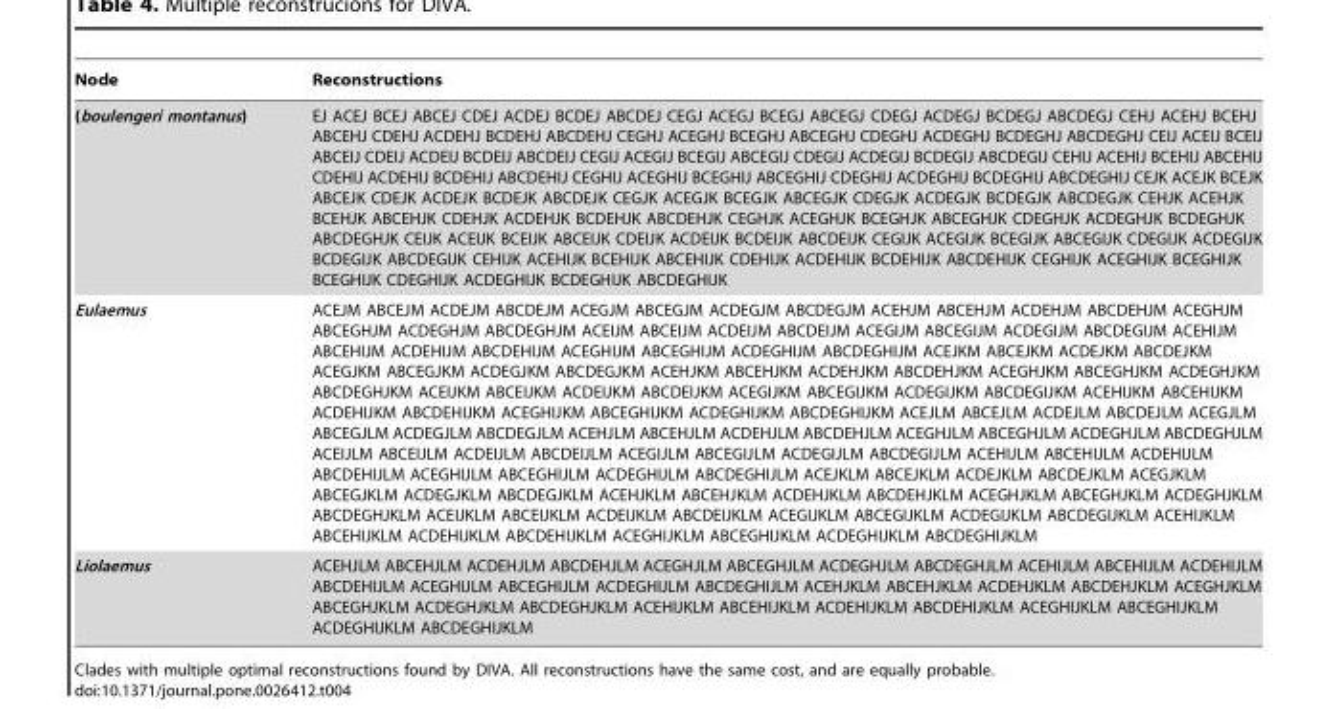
<table><thead><tr><td>Node</td><td>Reconstructions</td></tr></thead><tbody><tr><td>(boulengeri montanus)</td><td>EJ ACEJ BCEJ ABCEJ CDEJ ACDEJ BCDEJ ABCDEJ CEGJ ACEGJ BCEGJ ABCEGJ CDEGJ ACDEGJ BCDEGJ ABCDEGJ CEHJ ACEHJ BCEHJ ABCEHJ CDEHJ ACDEHJ BCDEHJ ABCDEHJ CEGHJ ACEGHJ BCEGHJ ABCEGHJ CDEGHJ ACDEGHJ BCDEGHJ ABCDEGHJ CEIJ ACEIJ BCEIJ ABCEIJ CDEIJ ACDEIJ BCDEIJ ABCDEIJ CEGIJ ACEGIJ BCEGIJ ABCEGIJ CDEGIJ ACDEGIJ BCDEGIJ ABCDEGIJ CEHIJ ACEHIJ BCEHIJ ABCEHIJ CDEHIJ ACDEHIJ BCDEHIJ ABCDEHIJ CEGHIJ ACEGHIJ BCEGHIJ ABCEGHIJ CDEGHIJ ACDEGHIJ BCDEGHIJ ABCDEGHIJ CEJK ACEJK BCEJK ABCEJK CDEJK ACDEJK BCDEJK ABCDEJK CEGJK ACEGJK BCEGJK ABCEGJK CDEGJK ACDEGJK BCDEGJK ABCDEGJK CEHJK ACEHJK BCEHJK ABCEHJK CDEHJK ACDEHJK BCDEHJK ABCDEHJK CEGHJK ACEGHJK BCEGHJK ABCEGHJK CDEGHJK ACDEGHJK BCDEGHJK ABCDEGHJK CEIJK ACEIJK BCEIJK ABCEIJK CDEIJK ACDEIJK BCDEIJK ABCDEIJK CEGIJK ACEGIJK BCEGIJK ABCEGIJK CDEGIJK ACDEGIJK BCDEGIJK ABCDEGIJK CEHIJK ACEHIJK BCEHIJK ABCEHIJK CDEHIJK ACDEHIJK BCDEHIJK ABCDEHIJK CEGHIJK ACEGHIJK BCEGHIJK BCEGHIJK CDEGHIJK ACDEGHIJK BCDEGHIJK ABCDEGHIJK</td></tr><tr><td>Eulaemus</td><td>ACEJM ABCEJM ACDEJM ABCDEJM ACEGJM ABCEGJM ACDEGJM ABCDEGJM ACEHJM ABCEHJM ACDEHJM ABCDEHJM ACEGHJM ABCEGHJM ACDEGHJM ABCDEGHJM ACEIJM ABCEIJM ACDEIJM ABCDEIJM ACEGIJM ABCEGIJM ACDEGIJM ABCDEGIJM ACEHIJM ABCEHIJM ACDEHIJM ABCDEHIJM ACEGHIJM ABCEGHIJM ACDEGHIJM ABCDEGHIJM ACEJKM ABCEJKM ACDEJKM ABCDEJKM ACEGJKM ABCEGJKM ACDEGJKM ABCDEGJKM ACEHJKM ABCEHJKM ACDEHJKM ABCDEHJKM ACEGHJKM ABCEGHJKM ACDEGHJKM ABCDEGHJKM ACEIJKM ABCEIJKM ACDEIJKM ABCDEIJKM ACEGIJKM ABCEGIJKM ACDEGIJKM ABCDEGIJKM ACEHIJKM ABCEHIJKM ACDEHIJKM ABCDEHIJKM ACEGHIJKM ABCEGHIJKM ACDEGHIJKM ABCDEGHIJKM ACEJLM ABCEJLM ACDEJLM ABCDEJLM ACEGJLM ABCEGJLM ACDEGJLM ABCDEGJLM ACEHJLM ABCEHJLM ACDEHJLM ABCDEHJLM ACEGHJLM ABCEGHJLM ACDEGHJLM ABCDEGHJLM ACEIJLM ABCEIJLM ACDEIJLM ABCDEIJLM ACEGIJLM ABCEGIJLM ACDEGIJLM ABCDEGIJLM ACEHIJLM ABCEHIJLM ACDEHIJLM ABCDEHIJLM ACEGHIJLM ABCEGHIJLM ACDEGHIJLM ABCDEGHIJLM ACEJKLM ABCEJKLM ACDEJKLM ABCDEJKLM ACEGJKLM ABCEGJKLM ACDEGJKLM ABCDEGJKLM ACEHJKLM ABCEHJKLM ACDEHJKLM ABCDEHJKLM ACEGHJKLM ABCEGHJKLM ACDEGHJKLM ABCDEGHJKLM ACEIJKLM ABCEIJKLM ACDEIJKLM ABCDEIJKLM ACEGIJKLM ABCEGIJKLM ACDEGIJKLM ABCDEGIJKLM ACEHIJKLM ABCEHIJKLM ACDEHIJKLM ABCDEHIJKLM ACEGHIJKLM ABCEGHIJKLM ACDEGHIJKLM ABCDEGHIJKLM</td></tr><tr><td>Liolaemus</td><td>ACEHJLM ABCEHJLM ACDEHJLM ABCDEHJLM ACEGHJLM ABCEGHJLM ACDEGHJLM ABCDEGHJLM ACEHIJLM ABCEHIJLM ACDEHIJLM ABCDEHIJLM ACEGHIJLM ABCEGHIJLM ACDEGHIJLM ABCDEGHIJLM ACEHJKLM ABCEHJKLM ACDEHJKLM ABCDEHJKLM ACEGHJKLM ABCEGHJKLM ACDEGHJKLM ABCDEGHJKLM ACEHIJKLM ABCEHIJKLM ACDEHIJKLM ABCDEHIJKLM ACEGHIJKLM ABCEGHIJKLM ACDEGHIJKLM ABCDEGHIJKLM</td></tr></tbody></table>